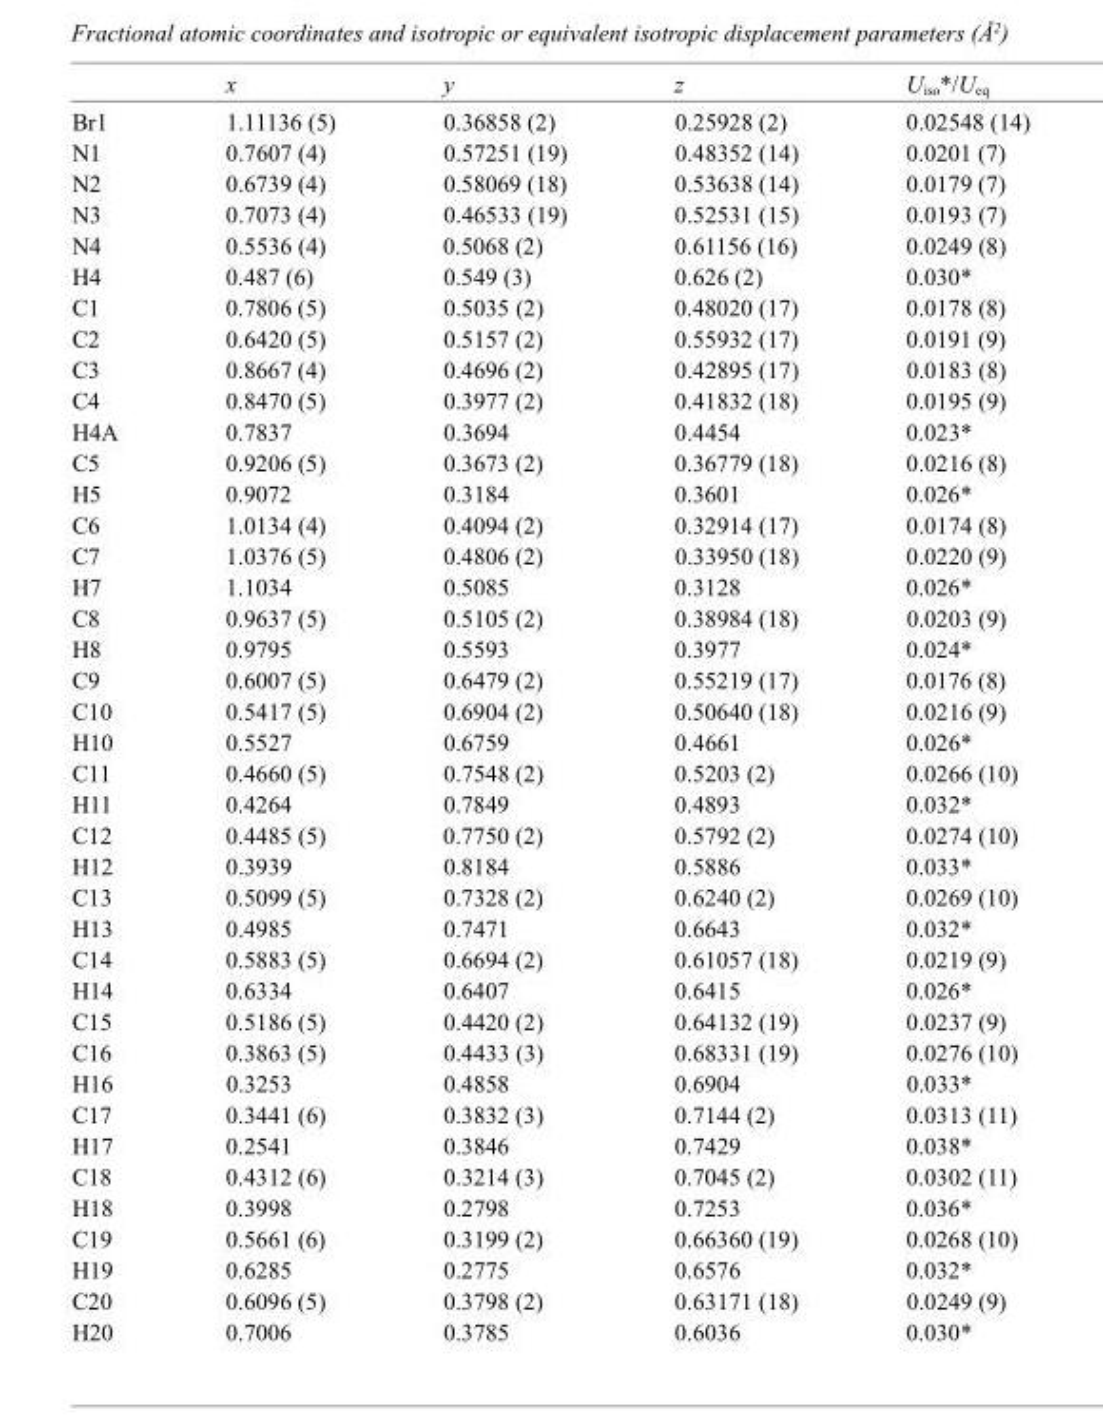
<table><thead><tr><td></td><td>x</td><td>y</td><td>z</td><td>U<sub>iso</sub>*/U<sub>eq</sub></td></tr></thead><tbody><tr><td>Br1</td><td>1.11136 (5)</td><td>0.36858 (2)</td><td>0.25928 (2)</td><td>0.02548 (14)</td></tr><tr><td>N1</td><td>0.7607 (4)</td><td>0.57251 (19)</td><td>0.48352 (14)</td><td>0.0201 (7)</td></tr><tr><td>N2</td><td>0.6739 (4)</td><td>0.58069 (18)</td><td>0.53638 (14)</td><td>0.0179 (7)</td></tr><tr><td>N3</td><td>0.7073 (4)</td><td>0.46533 (19)</td><td>0.52531 (15)</td><td>0.0193 (7)</td></tr><tr><td>N4</td><td>0.5536 (4)</td><td>0.5068 (2)</td><td>0.61156 (16)</td><td>0.0249 (8)</td></tr><tr><td>H4</td><td>0.487 (6)</td><td>0.549 (3)</td><td>0.626 (2)</td><td>0.030*</td></tr><tr><td>C1</td><td>0.7806 (5)</td><td>0.5035 (2)</td><td>0.48020 (17)</td><td>0.0178 (8)</td></tr><tr><td>C2</td><td>0.6420 (5)</td><td>0.5157 (2)</td><td>0.55932 (17)</td><td>0.0191 (9)</td></tr><tr><td>C3</td><td>0.8667 (4)</td><td>0.4696 (2)</td><td>0.42895 (17)</td><td>0.0183 (8)</td></tr><tr><td>C4</td><td>0.8470 (5)</td><td>0.3977 (2)</td><td>0.41832 (18)</td><td>0.0195 (9)</td></tr><tr><td>H4A</td><td>0.7837</td><td>0.3694</td><td>0.4454</td><td>0.023*</td></tr><tr><td>C5</td><td>0.9206 (5)</td><td>0.3673 (2)</td><td>0.36779 (18)</td><td>0.0216 (8)</td></tr><tr><td>H5</td><td>0.9072</td><td>0.3184</td><td>0.3601</td><td>0.026*</td></tr><tr><td>C6</td><td>1.0134 (4)</td><td>0.4094 (2)</td><td>0.32914 (17)</td><td>0.0174 (8)</td></tr><tr><td>C7</td><td>1.0376 (5)</td><td>0.4806 (2)</td><td>0.33950 (18)</td><td>0.0220 (9)</td></tr><tr><td>H7</td><td>1.1034</td><td>0.5085</td><td>0.3128</td><td>0.026*</td></tr><tr><td>C8</td><td>0.9637 (5)</td><td>0.5105 (2)</td><td>0.38984 (18)</td><td>0.0203 (9)</td></tr><tr><td>H8</td><td>0.9795</td><td>0.5593</td><td>0.3977</td><td>0.024*</td></tr><tr><td>C9</td><td>0.6007 (5)</td><td>0.6479 (2)</td><td>0.55219 (17)</td><td>0.0176 (8)</td></tr><tr><td>C10</td><td>0.5417 (5)</td><td>0.6904 (2)</td><td>0.50640 (18)</td><td>0.0216 (9)</td></tr><tr><td>H10</td><td>0.5527</td><td>0.6759</td><td>0.4661</td><td>0.026*</td></tr><tr><td>C11</td><td>0.4660 (5)</td><td>0.7548 (2)</td><td>0.5203 (2)</td><td>0.0266 (10)</td></tr><tr><td>H11</td><td>0.4264</td><td>0.7849</td><td>0.4893</td><td>0.032*</td></tr><tr><td>C12</td><td>0.4485 (5)</td><td>0.7750 (2)</td><td>0.5792 (2)</td><td>0.0274 (10)</td></tr><tr><td>H12</td><td>0.3939</td><td>0.8184</td><td>0.5886</td><td>0.033*</td></tr><tr><td>C13</td><td>0.5099 (5)</td><td>0.7328 (2)</td><td>0.6240 (2)</td><td>0.0269 (10)</td></tr><tr><td>H13</td><td>0.4985</td><td>0.7471</td><td>0.6643</td><td>0.032*</td></tr><tr><td>C14</td><td>0.5883 (5)</td><td>0.6694 (2)</td><td>0.61057 (18)</td><td>0.0219 (9)</td></tr><tr><td>H14</td><td>0.6334</td><td>0.6407</td><td>0.6415</td><td>0.026*</td></tr><tr><td>C15</td><td>0.5186 (5)</td><td>0.4420 (2)</td><td>0.64132 (19)</td><td>0.0237 (9)</td></tr><tr><td>C16</td><td>0.3863 (5)</td><td>0.4433 (3)</td><td>0.68331 (19)</td><td>0.0276 (10)</td></tr><tr><td>H16</td><td>0.3253</td><td>0.4858</td><td>0.6904</td><td>0.033*</td></tr><tr><td>C17</td><td>0.3441 (6)</td><td>0.3832 (3)</td><td>0.7144 (2)</td><td>0.0313 (11)</td></tr><tr><td>H17</td><td>0.2541</td><td>0.3846</td><td>0.7429</td><td>0.038*</td></tr><tr><td>C18</td><td>0.4312 (6)</td><td>0.3214 (3)</td><td>0.7045 (2)</td><td>0.0302 (11)</td></tr><tr><td>H18</td><td>0.3998</td><td>0.2798</td><td>0.7253</td><td>0.036*</td></tr><tr><td>C19</td><td>0.5661 (6)</td><td>0.3199 (2)</td><td>0.66360 (19)</td><td>0.0268 (10)</td></tr><tr><td>H19</td><td>0.6285</td><td>0.2775</td><td>0.6576</td><td>0.032*</td></tr><tr><td>C20</td><td>0.6096 (5)</td><td>0.3798 (2)</td><td>0.63171 (18)</td><td>0.0249 (9)</td></tr><tr><td>H20</td><td>0.7006</td><td>0.3785</td><td>0.6036</td><td>0.030*</td></tr></tbody></table>